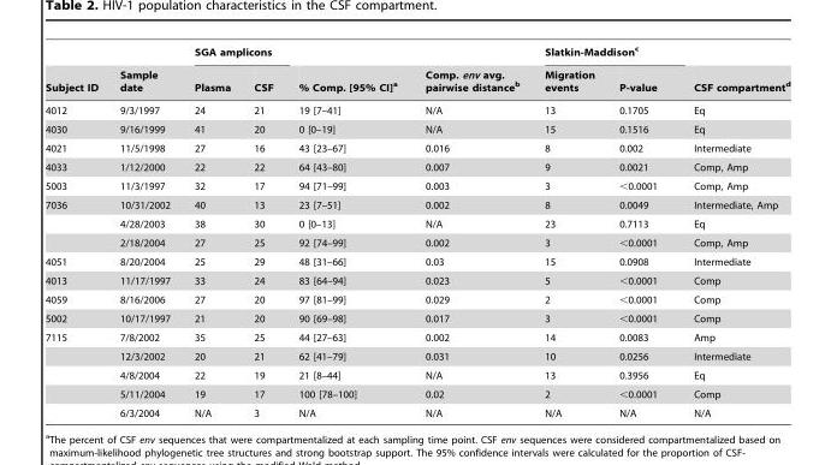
<table><thead><tr><td rowspan="2">Subject ID</td><td rowspan="2">Sample date</td><td colspan="2">SGA amplicons</td><td rowspan="2">% Comp. [95% CI]<sup>a</sup></td><td rowspan="2">Comp. env avg. pairwise distance<sup>b</sup></td><td colspan="2">Slatkin-Maddison<sup>c</sup></td><td rowspan="2">CSF compartment<sup>d</sup></td></tr><tr><td>Plasma</td><td>CSF</td><td>Migration events</td><td>P-value</td></tr></thead><tbody><tr><td>4012</td><td>9/3/1997</td><td>24</td><td>21</td><td>19 [7–41]</td><td>N/A</td><td>13</td><td>0.1705</td><td>Eq</td></tr><tr><td>4030</td><td>9/16/1999</td><td>41</td><td>20</td><td>0 [0–19]</td><td>N/A</td><td>15</td><td>0.1516</td><td>Eq</td></tr><tr><td>4021</td><td>11/5/1998</td><td>27</td><td>16</td><td>43 [23–67]</td><td>0.016</td><td>8</td><td>0.002</td><td>Intermediate</td></tr><tr><td>4033</td><td>1/12/2000</td><td>22</td><td>22</td><td>64 [43–80]</td><td>0.007</td><td>9</td><td>0.0021</td><td>Comp, Amp</td></tr><tr><td>5003</td><td>11/3/1997</td><td>32</td><td>17</td><td>94 [71–99]</td><td>0.003</td><td>3</td><td>&lt;0.0001</td><td>Comp, Amp</td></tr><tr><td rowspan="3">7036</td><td>10/31/2002</td><td>40</td><td>13</td><td>23 [7–51]</td><td>0.002</td><td>8</td><td>0.0049</td><td>Intermediate, Amp</td></tr><tr><td>4/28/2003</td><td>38</td><td>30</td><td>0 [0–13]</td><td>N/A</td><td>23</td><td>0.7113</td><td>Eq</td></tr><tr><td>2/18/2004</td><td>27</td><td>25</td><td>92 [74–99]</td><td>0.002</td><td>3</td><td>&lt;0.0001</td><td>Comp, Amp</td></tr><tr><td>4051</td><td>8/20/2004</td><td>25</td><td>29</td><td>48 [31–66]</td><td>0.03</td><td>15</td><td>0.0908</td><td>Intermediate</td></tr><tr><td>4013</td><td>11/17/1997</td><td>33</td><td>24</td><td>83 [64–94]</td><td>0.023</td><td>5</td><td>&lt;0.0001</td><td>Comp</td></tr><tr><td>4059</td><td>8/16/2006</td><td>27</td><td>20</td><td>97 [81–99]</td><td>0.029</td><td>2</td><td>&lt;0.0001</td><td>Comp</td></tr><tr><td>5002</td><td>10/17/1997</td><td>21</td><td>20</td><td>90 [69–98]</td><td>0.017</td><td>3</td><td>&lt;0.0001</td><td>Comp</td></tr><tr><td rowspan="5">7115</td><td>7/8/2002</td><td>35</td><td>25</td><td>44 [27–63]</td><td>0.002</td><td>14</td><td>0.0083</td><td>Amp</td></tr><tr><td>12/3/2002</td><td>20</td><td>21</td><td>62 [41–79]</td><td>0.031</td><td>10</td><td>0.0256</td><td>Intermediate</td></tr><tr><td>4/8/2004</td><td>22</td><td>19</td><td>21 [8–44]</td><td>N/A</td><td>13</td><td>0.3956</td><td>Eq</td></tr><tr><td>5/11/2004</td><td>19</td><td>17</td><td>100 [78–100]</td><td>0.02</td><td>2</td><td>&lt;0.0001</td><td>Comp</td></tr><tr><td>6/3/2004</td><td>N/A</td><td>3</td><td>N/A</td><td>N/A</td><td>N/A</td><td>N/A</td><td>N/A</td></tr></tbody></table>